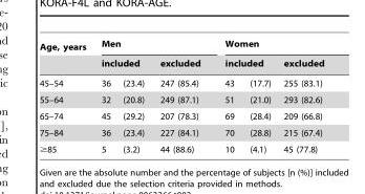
<table><thead><tr><td rowspan="3">Age, years 45–54</td><td colspan="3">Men</td><td colspan="3">Women</td></tr><tr><td colspan="2">included</td><td rowspan="2">excluded 247 (85.4)</td><td colspan="2">included</td><td rowspan="2">excluded 255 (83.1)</td></tr><tr><td>36</td><td>(23.4)</td><td>43</td><td>(17.7)</td></tr></thead><tbody><tr><td>55–64</td><td>32</td><td>(20.8)</td><td>249 (87.1)</td><td>51</td><td>(21.0)</td><td>293 (82.6)</td></tr><tr><td>65–74</td><td>45</td><td>(29.2)</td><td>207 (78.3)</td><td>69</td><td>(28.4)</td><td>209 (66.8)</td></tr><tr><td>75–84</td><td>36</td><td>(23.4)</td><td>227 (84.1)</td><td>70</td><td>(28.8)</td><td>215 (67.4)</td></tr><tr><td>≥85</td><td>5</td><td>(3.2)</td><td>44 (88.6)</td><td>10</td><td>(4.1)</td><td>45 (77.8)</td></tr></tbody></table>